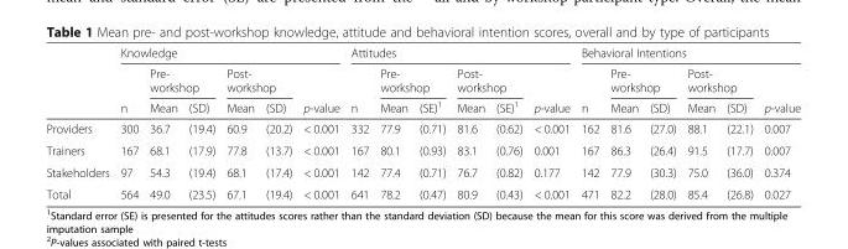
<table><thead><tr><td rowspan="3"></td><td colspan="6">Knowledge</td><td colspan="6">Attitudes</td><td colspan="6">Behavioral Intentions</td></tr><tr><td rowspan="2">n</td><td colspan="2">Pre- workshop</td><td colspan="2">Post- workshop</td><td rowspan="2">p-value</td><td rowspan="2">n</td><td colspan="2">Pre- workshop</td><td colspan="2">Post- workshop</td><td rowspan="2">p-value</td><td rowspan="2">n</td><td colspan="2">Pre- workshop</td><td colspan="2">Post- workshop</td><td rowspan="2">p-value</td></tr><tr><td>Mean</td><td>(SD)</td><td>Mean</td><td>(SD)</td><td>Mean</td><td>(SE)<sup>1</sup></td><td>Mean</td><td>(SE)<sup>1</sup></td><td>Mean</td><td>(SD)</td><td>Mean</td><td>(SD)</td></tr></thead><tbody><tr><td>Providers</td><td>300</td><td>36.7</td><td>(19.4)</td><td>60.9</td><td>(20.2)</td><td>&lt; 0.001</td><td>332</td><td>77.9</td><td>(0.71)</td><td>81.6</td><td>(0.62)</td><td>&lt; 0.001</td><td>162</td><td>81.6</td><td>(27.0)</td><td>88.1</td><td>(22.1)</td><td>0.007</td></tr><tr><td>Trainers</td><td>167</td><td>68.1</td><td>(17.9)</td><td>77.8</td><td>(13.7)</td><td>&lt; 0.001</td><td>167</td><td>80.1</td><td>(0.93)</td><td>83.1</td><td>(0.76)</td><td>0.001</td><td>167</td><td>86.3</td><td>(26.4)</td><td>91.5</td><td>(17.7)</td><td>0.007</td></tr><tr><td>Stakeholders</td><td>97</td><td>54.3</td><td>(19.4)</td><td>68.1</td><td>(17.4)</td><td>&lt; 0.001</td><td>142</td><td>77.4</td><td>(0.71)</td><td>76.7</td><td>(0.82)</td><td>0.177</td><td>142</td><td>77.9</td><td>(30.3)</td><td>75.0</td><td>(36.0)</td><td>0.374</td></tr><tr><td>Total</td><td>564</td><td>49.0</td><td>(23.5)</td><td>67.1</td><td>(19.4)</td><td>&lt; 0.001</td><td>641</td><td>78.2</td><td>(0.47)</td><td>80.9</td><td>(0.43)</td><td>&lt; 0.001</td><td>471</td><td>82.2</td><td>(28.0)</td><td>85.4</td><td>(26.8)</td><td>0.027</td></tr></tbody></table>